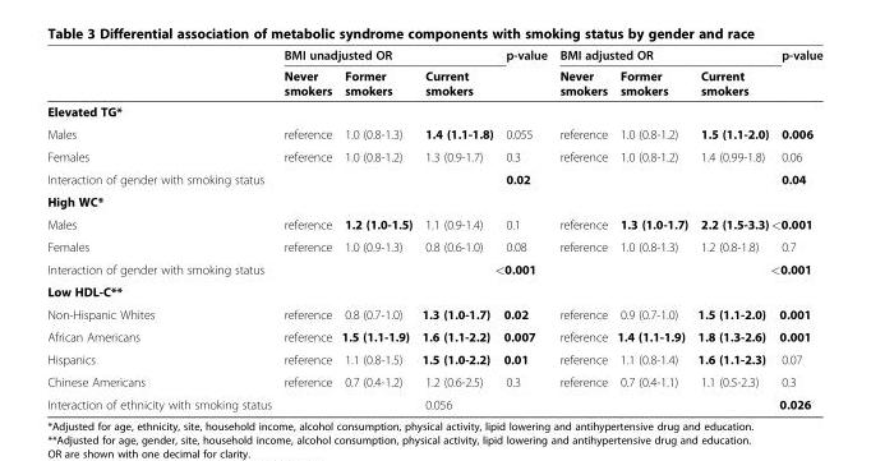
<table><thead><tr><td rowspan="2"></td><td colspan="3">BMI unadjusted OR</td><td rowspan="2">p-value</td><td colspan="3">BMI adjusted OR</td><td rowspan="2">p-value</td></tr><tr><td>Never smokers</td><td>Former smokers</td><td>Current smokers</td><td>Never smokers</td><td>Former smokers</td><td>Current smokers</td></tr></thead><tbody><tr><td colspan="9">Elevated TG*</td></tr><tr><td>Males</td><td>reference</td><td>1.0 (0.8-1.3)</td><td>1.4 (1.1-1.8)</td><td>0.055</td><td>reference</td><td>1.0 (0.8-1.2)</td><td>1.5 (1.1-2.0)</td><td>0.006</td></tr><tr><td>Females</td><td>reference</td><td>1.0 (0.8-1.2)</td><td>1.3 (0.9-1.7)</td><td>0.3</td><td>reference</td><td>1.0 (0.8-1.2)</td><td>1.4 (0.99-1.8)</td><td>0.06</td></tr><tr><td colspan="2">Interaction of gender with smoking status</td><td></td><td></td><td>0.02</td><td></td><td></td><td></td><td>0.04</td></tr><tr><td colspan="9">High WC*</td></tr><tr><td>Males</td><td>reference</td><td>1.2 (1.0-1.5)</td><td>1.1 (0.9-1.4)</td><td>0.1</td><td>reference</td><td>1.3 (1.0-1.7)</td><td>2.2 (1.5-3.3)</td><td>&lt;0.001</td></tr><tr><td>Females</td><td>reference</td><td>1.0 (0.9-1.3)</td><td>0.8 (0.6-1.0)</td><td>0.08</td><td>reference</td><td>1.0 (0.8-1.3)</td><td>1.2 (0.8-1.8)</td><td>0.7</td></tr><tr><td>Interaction of gender with smoking status</td><td></td><td></td><td></td><td>&lt;0.001</td><td></td><td></td><td></td><td>&lt;0.001</td></tr><tr><td colspan="9">Low HDL-C**</td></tr><tr><td>Non-Hispanic Whites</td><td>reference</td><td>0.8 (0.7-1.0)</td><td>1.3 (1.0-1.7)</td><td>0.02</td><td>reference</td><td>0.9 (0.7-1.0)</td><td>1.5 (1.1-2.0)</td><td>0.001</td></tr><tr><td>African Americans</td><td>reference</td><td>1.5 (1.1-1.9)</td><td>1.6 (1.1-2.2)</td><td>0.007</td><td>reference</td><td>1.4 (1.1-1.9)</td><td>1.8 (1.3-2.6)</td><td>0.001</td></tr><tr><td>Hispanics</td><td>reference</td><td>1.1 (0.8-1.5)</td><td>1.5 (1.0-2.2)</td><td>0.01</td><td>reference</td><td>1.1 (0.8-1.4)</td><td>1.6 (1.1-2.3)</td><td>0.07</td></tr><tr><td>Chinese Americans</td><td>reference</td><td>0.7 (0.4-1.2)</td><td>1.2 (0.6-2.5)</td><td>0.3</td><td>reference</td><td>0.7 (0.4-1.1)</td><td>1.1 (0.5-2.3)</td><td>0.3</td></tr><tr><td>Interaction of ethnicity with smoking status</td><td></td><td></td><td>0.056</td><td></td><td></td><td></td><td></td><td>0.026</td></tr></tbody></table>